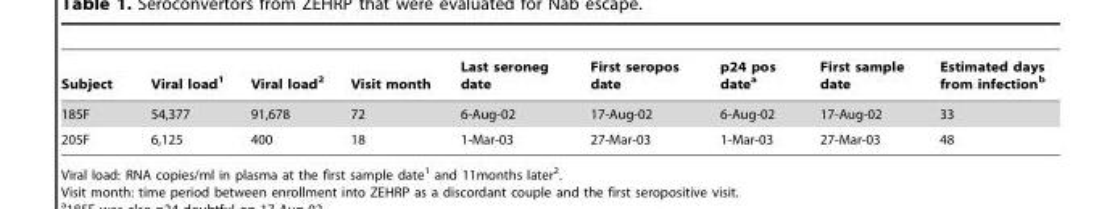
<table><thead><tr><td>Subject</td><td>Viral load<sup>1</sup></td><td>Viral load<sup>2</sup></td><td>Visit month</td><td>Last seroneg date</td><td>First seropos date</td><td>p24 pos date<sup>a</sup></td><td>First sample date</td><td>Estimated days from infection<sup>b</sup></td></tr></thead><tbody><tr><td>185F</td><td>54,377</td><td>91,678</td><td>72</td><td>6-Aug-02</td><td>17-Aug-02</td><td>6-Aug-02</td><td>17-Aug-02</td><td>33</td></tr><tr><td>205F</td><td>6,125</td><td>400</td><td>18</td><td>1-Mar-03</td><td>27-Mar-03</td><td>1-Mar-03</td><td>27-Mar-03</td><td>48</td></tr></tbody></table>